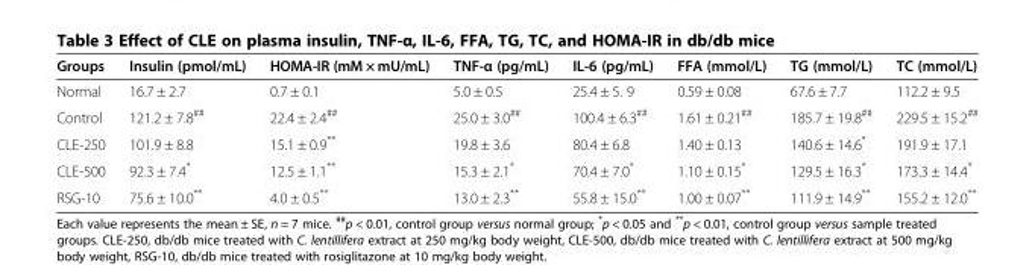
<table><thead><tr><td>Groups</td><td>Insulin (pmol/mL)</td><td>HOMA-IR (mM × mU/mL)</td><td>TNF-α (pg/mL)</td><td>IL-6 (pg/mL)</td><td>FFA (mmol/L)</td><td>TG (mmol/L)</td><td>TC (mmol/L)</td></tr></thead><tbody><tr><td>Normal</td><td>16.7 ± 2.7</td><td>0.7 ± 0.1</td><td>5.0 ± 0.5</td><td>25.4 ± 5. 9</td><td>0.59 ± 0.08</td><td>67.6 ± 7.7</td><td>112.2 ± 9.5</td></tr><tr><td>Control</td><td>121.2 ± 7.8<sup>##</sup></td><td>22.4 ± 2.4<sup>##</sup></td><td>25.0 ± 3.0<sup>##</sup></td><td>100.4 ± 6.3<sup>##</sup></td><td>1.61 ± 0.21<sup>##</sup></td><td>185.7 ± 19.8<sup>##</sup></td><td>229.5 ± 15.2<sup>##</sup></td></tr><tr><td>CLE-250</td><td>101.9 ± 8.8</td><td>15.1 ± 0.9**</td><td>19.8 ± 3.6</td><td>80.4 ± 6.8</td><td>1.40 ± 0.13</td><td>140.6 ± 14.6*</td><td>191.9 ± 17.1</td></tr><tr><td>CLE-500</td><td>92.3 ± 7.4*</td><td>12.5 ± 1.1**</td><td>15.3 ± 2.1*</td><td>70.4 ± 7.0*</td><td>1.10 ± 0.15*</td><td>129.5 ± 16.3*</td><td>173.3 ± 14.4*</td></tr><tr><td>RSG-10</td><td>75.6 ± 10.0**</td><td>4.0 ± 0.5**</td><td>13.0 ± 2.3**</td><td>55.8 ± 15.0**</td><td>1.00 ± 0.07**</td><td>111.9 ± 14.9**</td><td>155.2 ± 12.0**</td></tr></tbody></table>